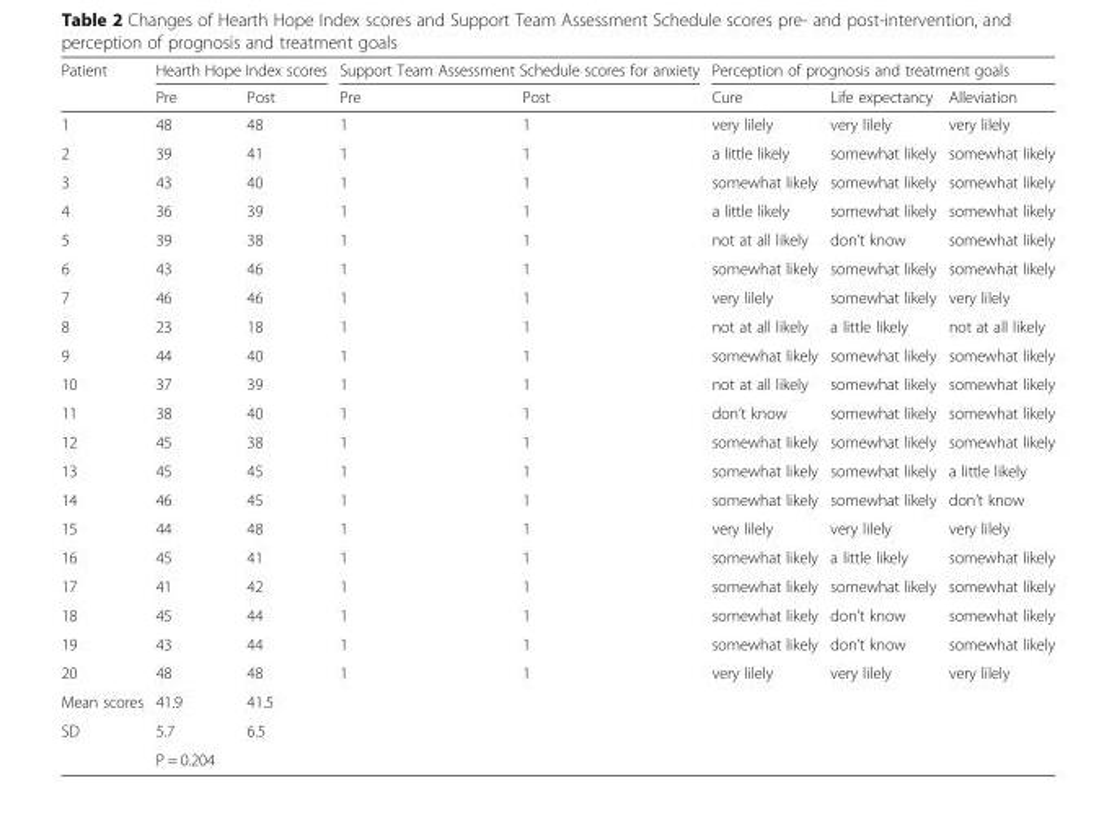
<table><thead><tr><td rowspan="2">Patient</td><td colspan="2">Hearth Hope Index scores</td><td colspan="2">Support Team Assessment Schedule scores for anxiety</td><td colspan="3">Perception of prognosis and treatment goals</td></tr><tr><td>Pre</td><td>Post</td><td>Pre</td><td>Post</td><td>Cure</td><td>Life expectancy</td><td>Alleviation</td></tr></thead><tbody><tr><td>1</td><td>48</td><td>48</td><td>1</td><td>1</td><td>very lilely</td><td>very lilely</td><td>very lilely</td></tr><tr><td>2</td><td>39</td><td>41</td><td>1</td><td>1</td><td>a little likely</td><td>somewhat likely</td><td>somewhat likely</td></tr><tr><td>3</td><td>43</td><td>40</td><td>1</td><td>1</td><td>somewhat likely</td><td>somewhat likely</td><td>somewhat likely</td></tr><tr><td>4</td><td>36</td><td>39</td><td>1</td><td>1</td><td>a little likely</td><td>somewhat likely</td><td>somewhat likely</td></tr><tr><td>5</td><td>39</td><td>38</td><td>1</td><td>1</td><td>not at all likely</td><td>don’t know</td><td>somewhat likely</td></tr><tr><td>6</td><td>43</td><td>46</td><td>1</td><td>1</td><td>somewhat likely</td><td>somewhat likely</td><td>somewhat likely</td></tr><tr><td>7</td><td>46</td><td>46</td><td>1</td><td>1</td><td>very lilely</td><td>somewhat likely</td><td>very lilely</td></tr><tr><td>8</td><td>23</td><td>18</td><td>1</td><td>1</td><td>not at all likely</td><td>a little likely</td><td>not at all likely</td></tr><tr><td>9</td><td>44</td><td>40</td><td>1</td><td>1</td><td>somewhat likely</td><td>somewhat likely</td><td>somewhat likely</td></tr><tr><td>10</td><td>37</td><td>39</td><td>1</td><td>1</td><td>not at all likely</td><td>somewhat likely</td><td>somewhat likely</td></tr><tr><td>11</td><td>38</td><td>40</td><td>1</td><td>1</td><td>don’t know</td><td>somewhat likely</td><td>somewhat likely</td></tr><tr><td>12</td><td>45</td><td>38</td><td>1</td><td>1</td><td>somewhat likely</td><td>somewhat likely</td><td>somewhat likely</td></tr><tr><td>13</td><td>45</td><td>45</td><td>1</td><td>1</td><td>somewhat likely</td><td>somewhat likely</td><td>a little likely</td></tr><tr><td>14</td><td>46</td><td>45</td><td>1</td><td>1</td><td>somewhat likely</td><td>somewhat likely</td><td>don’t know</td></tr><tr><td>15</td><td>44</td><td>48</td><td>1</td><td>1</td><td>very lilely</td><td>very lilely</td><td>very lilely</td></tr><tr><td>16</td><td>45</td><td>41</td><td>1</td><td>1</td><td>somewhat likely</td><td>a little likely</td><td>somewhat likely</td></tr><tr><td>17</td><td>41</td><td>42</td><td>1</td><td>1</td><td>somewhat likely</td><td>somewhat likely</td><td>somewhat likely</td></tr><tr><td>18</td><td>45</td><td>44</td><td>1</td><td>1</td><td>somewhat likely</td><td>don’t know</td><td>somewhat likely</td></tr><tr><td>19</td><td>43</td><td>44</td><td>1</td><td>1</td><td>somewhat likely</td><td>don’t know</td><td>somewhat likely</td></tr><tr><td>20</td><td>48</td><td>48</td><td>1</td><td>1</td><td>very lilely</td><td>very lilely</td><td>very lilely</td></tr><tr><td>Mean scores</td><td>41.9</td><td>41.5</td><td></td><td></td><td></td><td></td><td></td></tr><tr><td rowspan="2">SD</td><td>5.7</td><td>6.5</td><td></td><td></td><td></td><td></td><td></td></tr><tr><td colspan="2">P = 0.204</td><td></td><td></td><td></td><td></td><td></td></tr></tbody></table>